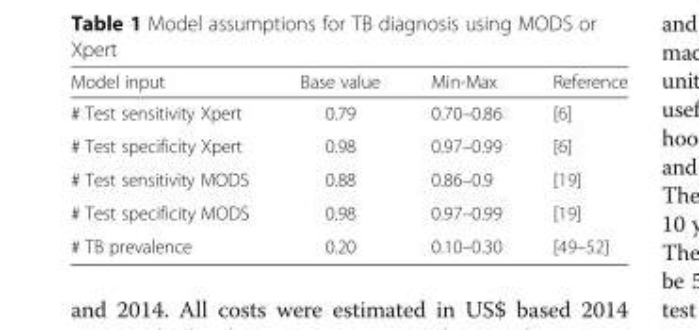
<table><thead><tr><td>Model input</td><td>Base value</td><td>Min-Max</td><td>Reference</td></tr></thead><tbody><tr><td># Test sensitivity Xpert</td><td>0.79</td><td>0.70–0.86</td><td>[6]</td></tr><tr><td># Test specificity Xpert</td><td>0.98</td><td>0.97–0.99</td><td>[6]</td></tr><tr><td># Test sensitivity MODS</td><td>0.88</td><td>0.86–0.9</td><td>[19]</td></tr><tr><td># Test specificity MODS</td><td>0.98</td><td>0.97–0.99</td><td>[19]</td></tr><tr><td># TB prevalence</td><td>0.20</td><td>0.10–0.30</td><td>[49–52]</td></tr></tbody></table>